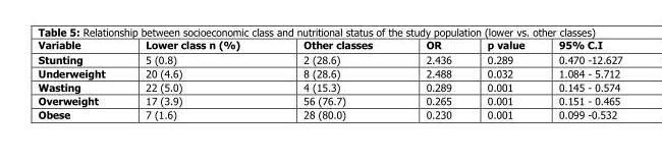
<table><thead><tr><td>Variable</td><td>Lower class n (%)</td><td>Other classes</td><td>OR</td><td>p value</td><td>95% C.I</td></tr></thead><tbody><tr><td>Stunting</td><td>5 (0.8)</td><td>2 (28.6)</td><td>2.436</td><td>0.289</td><td>0.470 -12.627</td></tr><tr><td>Underweight</td><td>20 (4.6)</td><td>8 (28.6)</td><td>2.488</td><td>0.032</td><td>1.084 - 5.712</td></tr><tr><td>Wasting</td><td>22 (5.0)</td><td>4 (15.3)</td><td>0.289</td><td>0.001</td><td>0.145 - 0.574</td></tr><tr><td>Overweight</td><td>17 (3.9)</td><td>56 (76.7)</td><td>0.265</td><td>0.001</td><td>0.151 - 0.465</td></tr><tr><td>Obese</td><td>7 (1.6)</td><td>28 (80.0)</td><td>0.230</td><td>0.001</td><td>0.099 -0.532</td></tr></tbody></table>